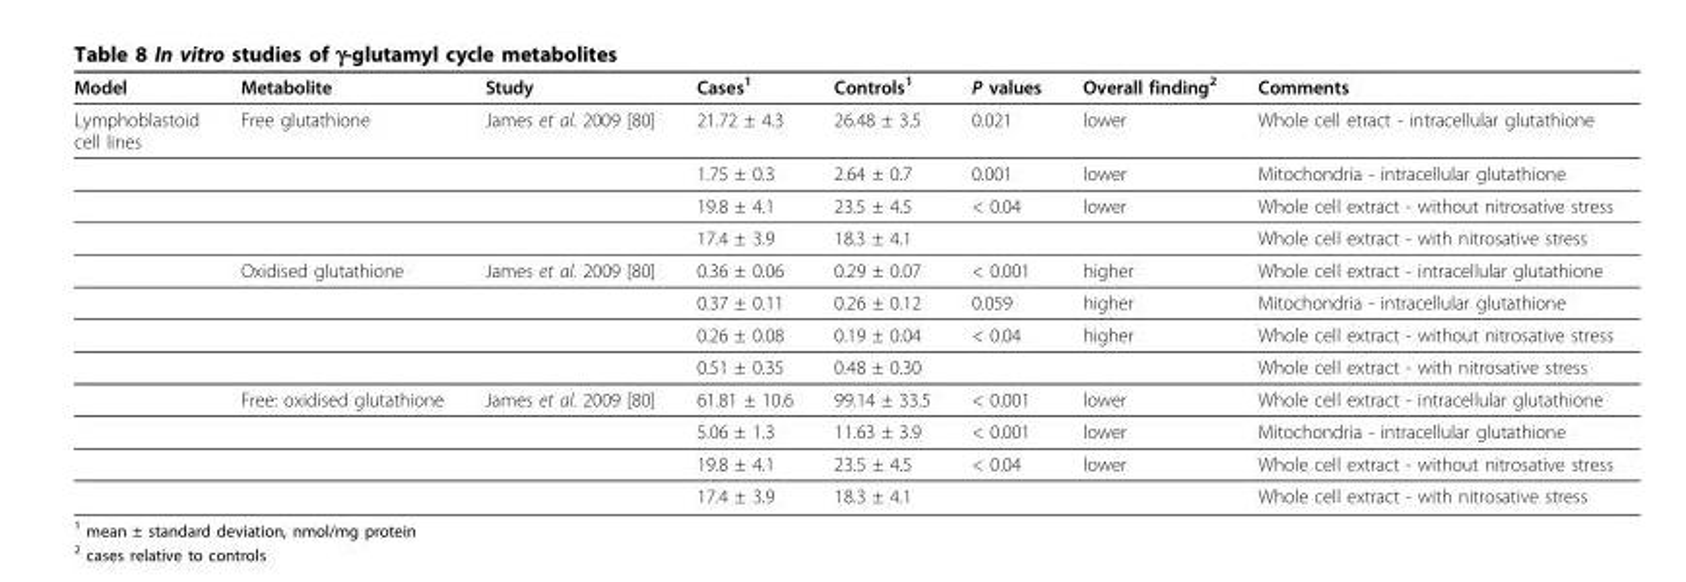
<table><thead><tr><td>Model</td><td>Metabolite</td><td>Study</td><td>Cases<sup>1</sup></td><td>Controls<sup>1</sup></td><td>P values</td><td>Overall finding<sup>2</sup></td><td>Comments</td></tr></thead><tbody><tr><td rowspan="12">Lymphoblastoid cell lines</td><td>Free glutathione</td><td>James et al. 2009 [80]</td><td>21.72 ± 4.3</td><td>26.48 ± 3.5</td><td>0.021</td><td>lower</td><td>Whole cell etract - intracellular glutathione</td></tr><tr><td></td><td></td><td>1.75 ± 0.3</td><td>2.64 ± 0.7</td><td>0.001</td><td>lower</td><td>Mitochondria - intracellular glutathione</td></tr><tr><td></td><td></td><td>19.8 ± 4.1</td><td>23.5 ± 4.5</td><td>&lt; 0.04</td><td>lower</td><td>Whole cell extract - without nitrosative stress</td></tr><tr><td></td><td></td><td>17.4 ± 3.9</td><td>18.3 ± 4.1</td><td></td><td></td><td>Whole cell extract - with nitrosative stress</td></tr><tr><td>Oxidised glutathione</td><td>James et al. 2009 [80]</td><td>0.36 ± 0.06</td><td>0.29 ± 0.07</td><td>&lt; 0.001</td><td>higher</td><td>Whole cell extract - intracellular glutathione</td></tr><tr><td></td><td></td><td>0.37 ± 0.11</td><td>0.26 ± 0.12</td><td>0.059</td><td>higher</td><td>Mitochondria - intracellular glutathione</td></tr><tr><td></td><td></td><td>0.26 ± 0.08</td><td>0.19 ± 0.04</td><td>&lt; 0.04</td><td>higher</td><td>Whole cell extract - without nitrosative stress</td></tr><tr><td></td><td></td><td>0.51 ± 0.35</td><td>0.48 ± 0.30</td><td></td><td></td><td>Whole cell extract - with nitrosative stress</td></tr><tr><td>Free: oxidised glutathione</td><td>James et al. 2009 [80]</td><td>61.81 ± 10.6</td><td>99.14 ± 33.5</td><td>&lt; 0.001</td><td>lower</td><td>Whole cell extract - intracellular glutathione</td></tr><tr><td></td><td></td><td>5.06 ± 1.3</td><td>11.63 ± 3.9</td><td>&lt; 0.001</td><td>lower</td><td>Mitochondria - intracellular glutathione</td></tr><tr><td></td><td></td><td>19.8 ± 4.1</td><td>23.5 ± 4.5</td><td>&lt; 0.04</td><td>lower</td><td>Whole cell extract - without nitrosative stress</td></tr><tr><td></td><td></td><td>17.4 ± 3.9</td><td>18.3 ± 4.1</td><td></td><td></td><td>Whole cell extract - with nitrosative stress</td></tr></tbody></table>